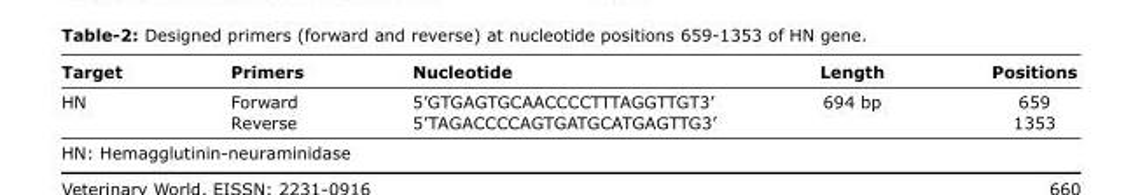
<table><thead><tr><td>Target</td><td>Primers</td><td>Nucleotide</td><td>Length</td><td>Positions</td></tr></thead><tbody><tr><td rowspan="2">HN</td><td>Forward</td><td>5’GTGAGTGCAACCCCTTTAGGTTGT3’</td><td>694 bp</td><td>659</td></tr><tr><td>Reverse</td><td>5’TAGACCCCAGTGATGCATGAGTTG3’</td><td></td><td>1353</td></tr></tbody></table>